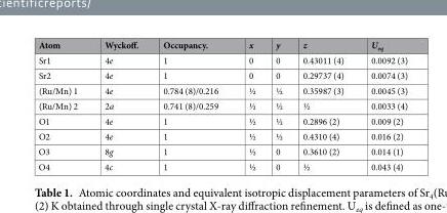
<table><thead><tr><td>Atom</td><td>Wyckoff.</td><td>Occupancy.</td><td>x</td><td>y</td><td>z</td><td>U<sub>eq</sub></td></tr></thead><tbody><tr><td>Sr1</td><td>4e</td><td>1</td><td>0</td><td>0</td><td>0.43011 (4)</td><td>0.0092 (3)</td></tr><tr><td>Sr2</td><td>4e</td><td>1</td><td>0</td><td>0</td><td>0.29737 (4)</td><td>0.0074 (3)</td></tr><tr><td>(Ru/Mn) 1</td><td>4e</td><td>0.784 (8)/0.216</td><td>½</td><td>½</td><td>0.35987 (3)</td><td>0.0045 (3)</td></tr><tr><td>(Ru/Mn) 2</td><td>2a</td><td>0.741 (8)/0.259</td><td>½</td><td>½</td><td>½</td><td>0.0033 (4)</td></tr><tr><td>O1</td><td>4e</td><td>1</td><td>½</td><td>½</td><td>0.2896 (2)</td><td>0.009 (2)</td></tr><tr><td>O2</td><td>4e</td><td>1</td><td>½</td><td>½</td><td>0.4310 (4)</td><td>0.016 (2)</td></tr><tr><td>O3</td><td>8g</td><td>1</td><td>½</td><td>0</td><td>0.3610 (2)</td><td>0.014 (1)</td></tr><tr><td>O4</td><td>4c</td><td>1</td><td>½</td><td>0</td><td>½</td><td>0.043 (4)</td></tr></tbody></table>